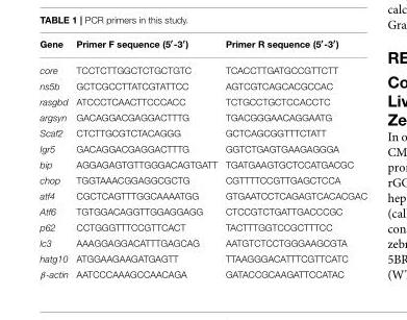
<table><thead><tr><td>Gene</td><td>Primer F sequence (5′-3′)</td><td>Primer R sequence (5′-3′)</td></tr></thead><tbody><tr><td>core</td><td>TCCTCTTGGCTCTGCTGTC</td><td>TCACCTTGATGCCGTTCTT</td></tr><tr><td>ns5b</td><td>GCTCGCCTTATCGTATTCC</td><td>AGTCGTCAGCACGCCAC</td></tr><tr><td>rasgbd</td><td>ATCCCTCAACTTCCCACC</td><td>TCTGCCTGCTCCACCTC</td></tr><tr><td>argsyn</td><td>GACAGGACGAGGACTTTG</td><td>TGACGGGAACAGGAATG</td></tr><tr><td>Scaf2</td><td>CTCTTGCGTCTACAGGG</td><td>GCTCAGCGGTTTCTATT</td></tr><tr><td>Igr5</td><td>GACAGGACGAGGACTTTG</td><td>GGTCTGAGTGAAGAGGGA</td></tr><tr><td>bip</td><td>AGGAGAGTGTTGGGACAGTGATT</td><td>TGATGAAGTGCTCCATGACGC</td></tr><tr><td>chop</td><td>TGGTAAACGGAGGCGCTG</td><td>CGTTTTCCGTTGAGCTCCA</td></tr><tr><td>atf4</td><td>CGCTCAGTTTGGCAAAATGG</td><td>GTGAATCCTCAGAGTCACACGAC</td></tr><tr><td>Atf6</td><td>TGTGGACAGGTTGGAGGAGG</td><td>CTCCGTCTGATTGACCCGC</td></tr><tr><td>p62</td><td>CCTGGGTTTCCGTTCACT</td><td>TACTTTGGTCCGCTTTCC</td></tr><tr><td>lc3</td><td>AAAGGAGGACATTTGAGCAG</td><td>AATGTCTCCTGGGAAGCGTA</td></tr><tr><td>hatg10</td><td>ATGGAAGAAGATGAGTT</td><td>TTAAGGGACATTTCGTTCATC</td></tr><tr><td>β-actin</td><td>AATCCCAAAGCCAACAGA</td><td>GATACCGCAAGATTCCATAC</td></tr></tbody></table>